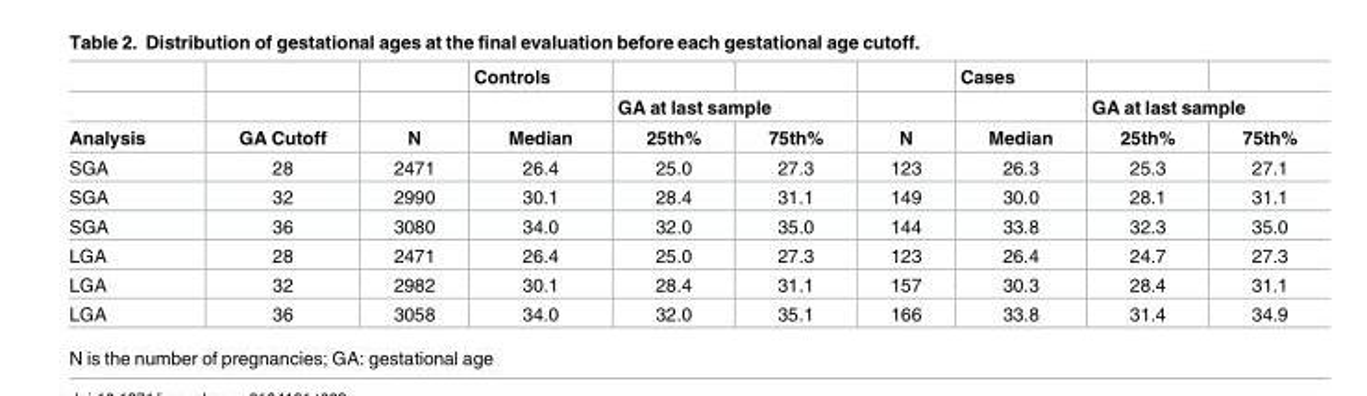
<table><thead><tr><td rowspan="3">Analysis</td><td rowspan="3">GA Cutoff</td><td rowspan="3">N</td><td rowspan="3">Controls Median</td><td></td><td></td><td rowspan="3">N</td><td rowspan="3">Cases Median</td><td></td><td></td></tr><tr><td colspan="2">GA at last sample</td><td colspan="2">GA at last sample</td></tr><tr><td>25th%</td><td>75th%</td><td>25th%</td><td>75th%</td></tr></thead><tbody><tr><td>SGA</td><td>28</td><td>2471</td><td>26.4</td><td>25.0</td><td>27.3</td><td>123</td><td>26.3</td><td>25.3</td><td>27.1</td></tr><tr><td>SGA</td><td>32</td><td>2990</td><td>30.1</td><td>28.4</td><td>31.1</td><td>149</td><td>30.0</td><td>28.1</td><td>31.1</td></tr><tr><td>SGA</td><td>36</td><td>3080</td><td>34.0</td><td>32.0</td><td>35.0</td><td>144</td><td>33.8</td><td>32.3</td><td>35.0</td></tr><tr><td>LGA</td><td>28</td><td>2471</td><td>26.4</td><td>25.0</td><td>27.3</td><td>123</td><td>26.4</td><td>24.7</td><td>27.3</td></tr><tr><td>LGA</td><td>32</td><td>2982</td><td>30.1</td><td>28.4</td><td>31.1</td><td>157</td><td>30.3</td><td>28.4</td><td>31.1</td></tr><tr><td>LGA</td><td>36</td><td>3058</td><td>34.0</td><td>32.0</td><td>35.1</td><td>166</td><td>33.8</td><td>31.4</td><td>34.9</td></tr></tbody></table>